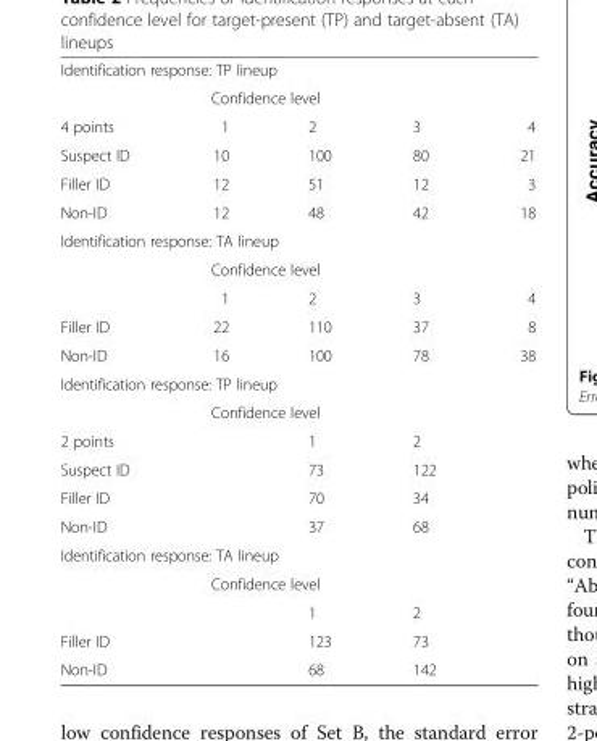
<table><tbody><tr><td colspan="5">Identification response: TP lineup</td></tr><tr><td></td><td colspan="4">Confidence level</td></tr><tr><td>4 points</td><td>1</td><td>2</td><td>3</td><td>4</td></tr><tr><td>Suspect ID</td><td>10</td><td>100</td><td>80</td><td>21</td></tr><tr><td>Filler ID</td><td>12</td><td>51</td><td>12</td><td>3</td></tr><tr><td>Non-ID</td><td>12</td><td>48</td><td>42</td><td>18</td></tr><tr><td colspan="5">Identification response: TA lineup</td></tr><tr><td></td><td colspan="4">Confidence level</td></tr><tr><td></td><td>1</td><td>2</td><td>3</td><td>4</td></tr><tr><td>Filler ID</td><td>22</td><td>110</td><td>37</td><td>8</td></tr><tr><td>Non-ID</td><td>16</td><td>100</td><td>78</td><td>38</td></tr><tr><td colspan="5">Identification response: TP lineup</td></tr><tr><td></td><td colspan="4">Confidence level</td></tr><tr><td>2 points</td><td></td><td>1</td><td>2</td><td></td></tr><tr><td>Suspect ID</td><td></td><td>73</td><td>122</td><td></td></tr><tr><td>Filler ID</td><td></td><td>70</td><td>34</td><td></td></tr><tr><td>Non-ID</td><td></td><td>37</td><td>68</td><td></td></tr><tr><td colspan="5">Identification response: TA lineup</td></tr><tr><td></td><td colspan="4">Confidence level</td></tr><tr><td></td><td></td><td>1</td><td>2</td><td></td></tr><tr><td>Filler ID</td><td></td><td>123</td><td>73</td><td></td></tr><tr><td>Non-ID</td><td></td><td>68</td><td>142</td><td></td></tr></tbody></table>